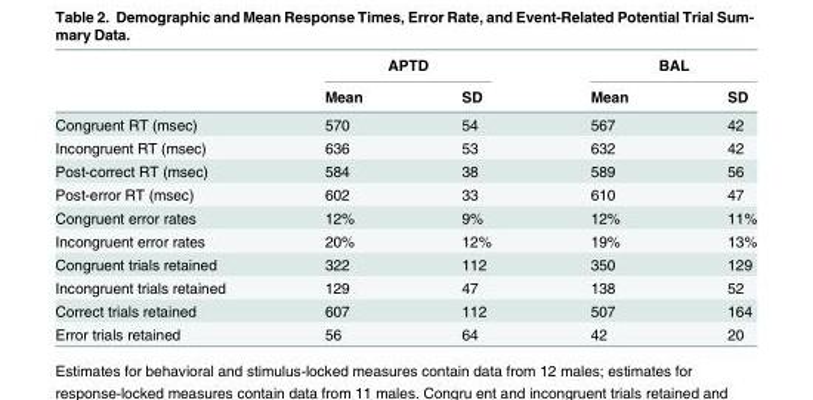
<table><thead><tr><td rowspan="2"></td><td colspan="2">APTD</td><td colspan="2">BAL</td></tr><tr><td>Mean</td><td>SD</td><td>Mean</td><td>SD</td></tr></thead><tbody><tr><td>Congruent RT (msec)</td><td>570</td><td>54</td><td>567</td><td>42</td></tr><tr><td>Incongruent RT (msec)</td><td>636</td><td>53</td><td>632</td><td>42</td></tr><tr><td>Post-correct RT (msec)</td><td>584</td><td>38</td><td>589</td><td>56</td></tr><tr><td>Post-error RT (msec)</td><td>602</td><td>33</td><td>610</td><td>47</td></tr><tr><td>Congruent error rates</td><td>12%</td><td>9%</td><td>12%</td><td>11%</td></tr><tr><td>Incongruent error rates</td><td>20%</td><td>12%</td><td>19%</td><td>13%</td></tr><tr><td>Congruent trials retained</td><td>322</td><td>112</td><td>350</td><td>129</td></tr><tr><td>Incongruent trials retained</td><td>129</td><td>47</td><td>138</td><td>52</td></tr><tr><td>Correct trials retained</td><td>607</td><td>112</td><td>507</td><td>164</td></tr><tr><td>Error trials retained</td><td>56</td><td>64</td><td>42</td><td>20</td></tr></tbody></table>